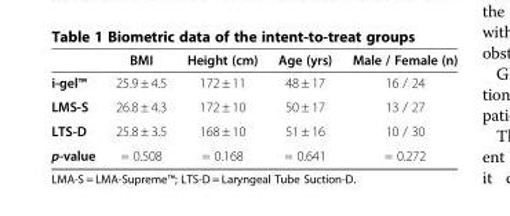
<table><thead><tr><td></td><td>BMI</td><td>Height (cm)</td><td>Age (yrs)</td><td>Male / Female (n)</td></tr></thead><tbody><tr><td>i-gel™</td><td>25.9 ± 4.5</td><td>172 ± 11</td><td>48 ± 17</td><td>16 / 24</td></tr><tr><td>LMS-S</td><td>26.8 ± 4.3</td><td>172 ± 10</td><td>50 ± 17</td><td>13 / 27</td></tr><tr><td>LTS-D</td><td>25.8 ± 3.5</td><td>168 ± 10</td><td>51 ± 16</td><td>10 / 30</td></tr><tr><td>p-value</td><td>= 0.508</td><td>= 0.168</td><td>= 0.641</td><td>= 0.272</td></tr></tbody></table>